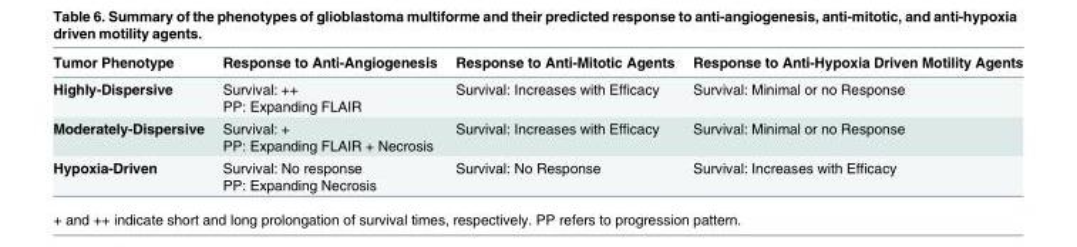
<table><thead><tr><td>Tumor Phenotype</td><td>Response to Anti-Angiogenesis</td><td>Response to Anti-Mitotic Agents</td><td>Response to Anti-Hypoxia Driven Motility Agents</td></tr></thead><tbody><tr><td>Highly-Dispersive</td><td>Survival: ++ PP: Expanding FLAIR</td><td>Survival: Increases with Efficacy</td><td>Survival: Minimal or no Response</td></tr><tr><td>Moderately-Dispersive</td><td>Survival: + PP: Expanding FLAIR + Necrosis</td><td>Survival: Increases with Efficacy</td><td>Survival: Minimal or no Response</td></tr><tr><td>Hypoxia-Driven</td><td>Survival: No response PP: Expanding Necrosis</td><td>Survival: No Response</td><td>Survival: Increases with Efficacy</td></tr></tbody></table>